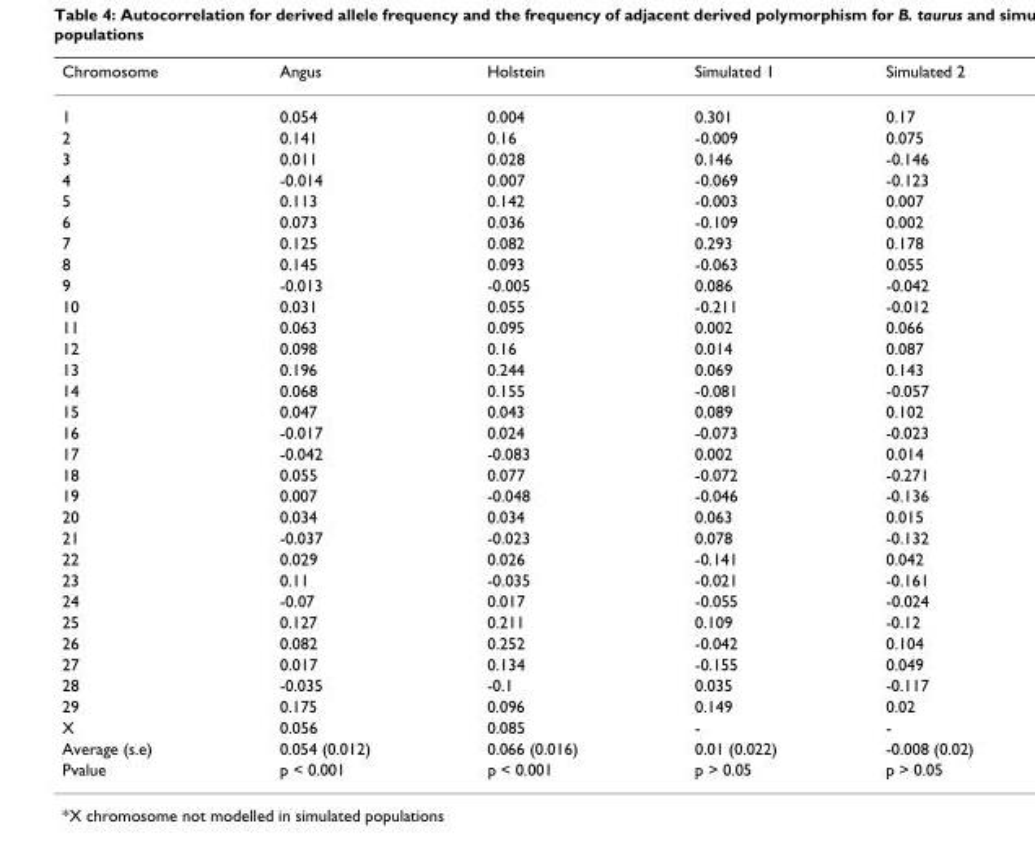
<table><thead><tr><td>Chromosome</td><td>Angus</td><td>Holstein</td><td>Simulated 1</td><td>Simulated 2</td></tr></thead><tbody><tr><td>1</td><td>0.054</td><td>0.004</td><td>0.301</td><td>0.17</td></tr><tr><td>2</td><td>0.141</td><td>0.16</td><td>-0.009</td><td>0.075</td></tr><tr><td>3</td><td>0.011</td><td>0.028</td><td>0.146</td><td>-0.146</td></tr><tr><td>4</td><td>-0.014</td><td>0.007</td><td>-0.069</td><td>-0.123</td></tr><tr><td>5</td><td>0.113</td><td>0.142</td><td>-0.003</td><td>0.007</td></tr><tr><td>6</td><td>0.073</td><td>0.036</td><td>-0.109</td><td>0.002</td></tr><tr><td>7</td><td>0.125</td><td>0.082</td><td>0.293</td><td>0.178</td></tr><tr><td>8</td><td>0.145</td><td>0.093</td><td>-0.063</td><td>0.055</td></tr><tr><td>9</td><td>-0.013</td><td>-0.005</td><td>0.086</td><td>-0.042</td></tr><tr><td>10</td><td>0.031</td><td>0.055</td><td>-0.211</td><td>-0.012</td></tr><tr><td>11</td><td>0.063</td><td>0.095</td><td>0.002</td><td>0.066</td></tr><tr><td>12</td><td>0.098</td><td>0.16</td><td>0.014</td><td>0.087</td></tr><tr><td>13</td><td>0.196</td><td>0.244</td><td>0.069</td><td>0.143</td></tr><tr><td>14</td><td>0.068</td><td>0.155</td><td>-0.081</td><td>-0.057</td></tr><tr><td>15</td><td>0.047</td><td>0.043</td><td>0.089</td><td>0.102</td></tr><tr><td>16</td><td>-0.017</td><td>0.024</td><td>-0.073</td><td>-0.023</td></tr><tr><td>17</td><td>-0.042</td><td>-0.083</td><td>0.002</td><td>0.014</td></tr><tr><td>18</td><td>0.055</td><td>0.077</td><td>-0.072</td><td>-0.271</td></tr><tr><td>19</td><td>0.007</td><td>-0.048</td><td>-0.046</td><td>-0.136</td></tr><tr><td>20</td><td>0.034</td><td>0.034</td><td>0.063</td><td>0.015</td></tr><tr><td>21</td><td>-0.037</td><td>-0.023</td><td>0.078</td><td>-0.132</td></tr><tr><td>22</td><td>0.029</td><td>0.026</td><td>-0.141</td><td>0.042</td></tr><tr><td>23</td><td>0.11</td><td>-0.035</td><td>-0.021</td><td>-0.161</td></tr><tr><td>24</td><td>-0.07</td><td>0.017</td><td>-0.055</td><td>-0.024</td></tr><tr><td>25</td><td>0.127</td><td>0.211</td><td>0.109</td><td>-0.12</td></tr><tr><td>26</td><td>0.082</td><td>0.252</td><td>-0.042</td><td>0.104</td></tr><tr><td>27</td><td>0.017</td><td>0.134</td><td>-0.155</td><td>0.049</td></tr><tr><td>28</td><td>-0.035</td><td>-0.1</td><td>0.035</td><td>-0.117</td></tr><tr><td>29</td><td>0.175</td><td>0.096</td><td>0.149</td><td>0.02</td></tr><tr><td>X</td><td>0.056</td><td>0.085</td><td>-</td><td>-</td></tr><tr><td>Average (s.e)</td><td>0.054 (0.012)</td><td>0.066 (0.016)</td><td>0.01 (0.022)</td><td>-0.008 (0.02)</td></tr><tr><td>Pvalue</td><td>p &lt; 0.001</td><td>p &lt; 0.001</td><td>p &gt; 0.05</td><td>p &gt; 0.05</td></tr></tbody></table>